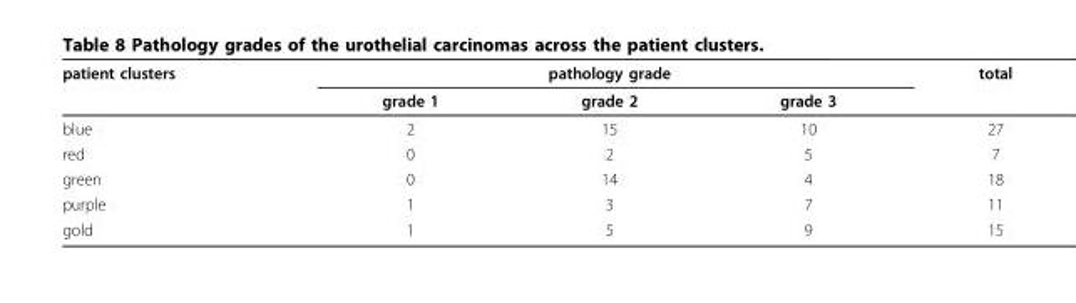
<table><thead><tr><td rowspan="2">patient clusters</td><td colspan="3">pathology grade</td><td rowspan="2">total</td></tr><tr><td>grade 1</td><td>grade 2</td><td>grade 3</td></tr></thead><tbody><tr><td>blue</td><td>2</td><td>15</td><td>10</td><td>27</td></tr><tr><td>red</td><td>0</td><td>2</td><td>5</td><td>7</td></tr><tr><td>green</td><td>0</td><td>14</td><td>4</td><td>18</td></tr><tr><td>purple</td><td>1</td><td>3</td><td>7</td><td>11</td></tr><tr><td>gold</td><td>1</td><td>5</td><td>9</td><td>15</td></tr></tbody></table>